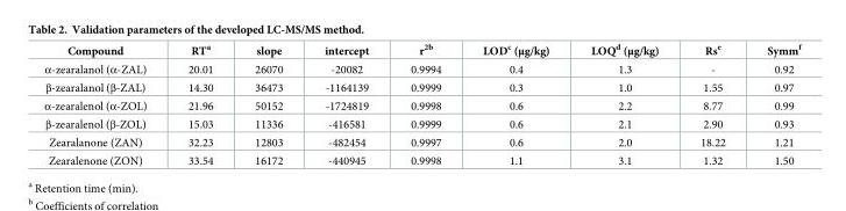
<table><thead><tr><td>Compound</td><td>RT<sup>a</sup></td><td>slope</td><td>intercept</td><td>r<sup>2b</sup></td><td>LOD<sup>c</sup> (μg/kg)</td><td>LOQ<sup>d</sup> (μg/kg)</td><td>Rs<sup>e</sup></td><td>Symm<sup>f</sup></td></tr></thead><tbody><tr><td>α-zearalanol (α-ZAL)</td><td>20.01</td><td>26070</td><td>-20082</td><td>0.9994</td><td>0.4</td><td>1.3</td><td>-</td><td>0.92</td></tr><tr><td>β-zearalanol (β-ZAL)</td><td>14.30</td><td>36473</td><td>-1164139</td><td>0.9999</td><td>0.3</td><td>1.0</td><td>1.55</td><td>0.97</td></tr><tr><td>α-zearalenol (α-ZOL)</td><td>21.96</td><td>50152</td><td>-1724819</td><td>0.9998</td><td>0.6</td><td>2.2</td><td>8.77</td><td>0.99</td></tr><tr><td>β-zearalenol (β-ZOL)</td><td>15.03</td><td>11336</td><td>-416581</td><td>0.9999</td><td>0.6</td><td>2.1</td><td>2.90</td><td>0.93</td></tr><tr><td>Zearalanone (ZAN)</td><td>32.23</td><td>12803</td><td>-482454</td><td>0.9997</td><td>0.6</td><td>2.0</td><td>18.22</td><td>1.21</td></tr><tr><td>Zearalenone (ZON)</td><td>33.54</td><td>16172</td><td>-440945</td><td>0.9998</td><td>1.1</td><td>3.1</td><td>1.32</td><td>1.50</td></tr></tbody></table>